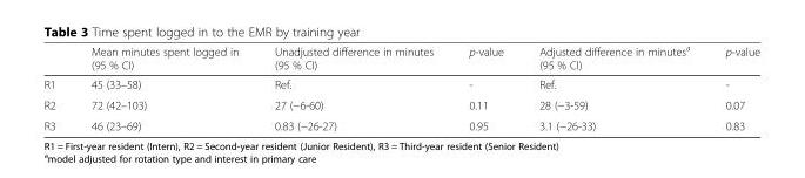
<table><thead><tr><td></td><td>Mean minutes spent logged in (95 % CI)</td><td>Unadjusted difference in minutes (95 % CI)</td><td>p-value</td><td>Adjusted difference in minutes<sup>a</sup> (95 % CI)</td><td>p-value</td></tr></thead><tbody><tr><td>R1</td><td>45 (33–58)</td><td>Ref.</td><td>-</td><td>Ref.</td><td>-</td></tr><tr><td>R2</td><td>72 (42–103)</td><td>27 (−6-60)</td><td>0.11</td><td>28 (−3-59)</td><td>0.07</td></tr><tr><td>R3</td><td>46 (23–69)</td><td>0.83 (−26-27)</td><td>0.95</td><td>3.1 (−26-33)</td><td>0.83</td></tr></tbody></table>